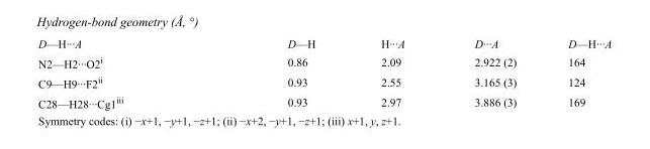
<table><tbody><tr><td>D—H···A</td><td>D—H</td><td>H···A</td><td>D···A</td><td>D—H···A</td></tr><tr><td>N2—H2···O2<sup>i</sup></td><td>0.86</td><td>2.09</td><td>2.922 (2)</td><td>164</td></tr><tr><td>C9—H9···F2<sup>ii</sup></td><td>0.93</td><td>2.55</td><td>3.165 (3)</td><td>124</td></tr><tr><td>C28—H28···Cg1<sup>iii</sup></td><td>0.93</td><td>2.97</td><td>3.886 (3)</td><td>169</td></tr></tbody></table>